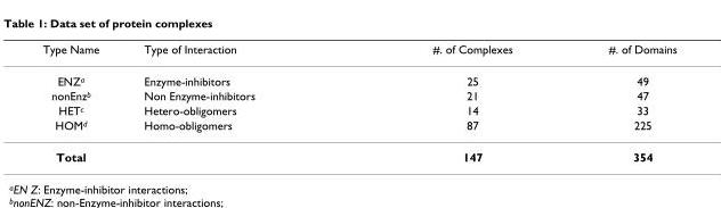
<table><thead><tr><td>Type Name</td><td>Type of Interaction</td><td>#. of Complexes</td><td>#. of Domains</td></tr></thead><tbody><tr><td>ENZ<sup>a</sup></td><td>Enzyme-inhibitors</td><td>25</td><td>49</td></tr><tr><td>nonEnz<sup>b</sup></td><td>Non Enzyme-inhibitors</td><td>21</td><td>47</td></tr><tr><td>HET<sup>c</sup></td><td>Hetero-obligomers</td><td>14</td><td>33</td></tr><tr><td>HOM<sup>d</sup></td><td>Homo-obligomers</td><td>87</td><td>225</td></tr><tr><td>Total</td><td></td><td>147</td><td>354</td></tr></tbody></table>